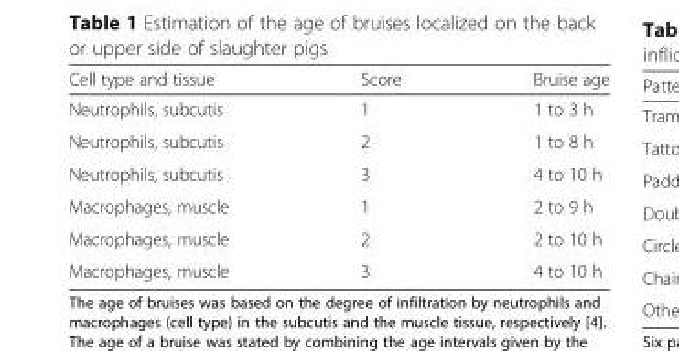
<table><thead><tr><td>Cell type and tissue</td><td>Score</td><td>Bruise age</td></tr></thead><tbody><tr><td>Neutrophils, subcutis</td><td>1</td><td>1 to 3 h</td></tr><tr><td>Neutrophils, subcutis</td><td>2</td><td>1 to 8 h</td></tr><tr><td>Neutrophils, subcutis</td><td>3</td><td>4 to 10 h</td></tr><tr><td>Macrophages, muscle</td><td>1</td><td>2 to 9 h</td></tr><tr><td>Macrophages, muscle</td><td>2</td><td>2 to 10 h</td></tr><tr><td>Macrophages, muscle</td><td>3</td><td>4 to 10 h</td></tr></tbody></table>